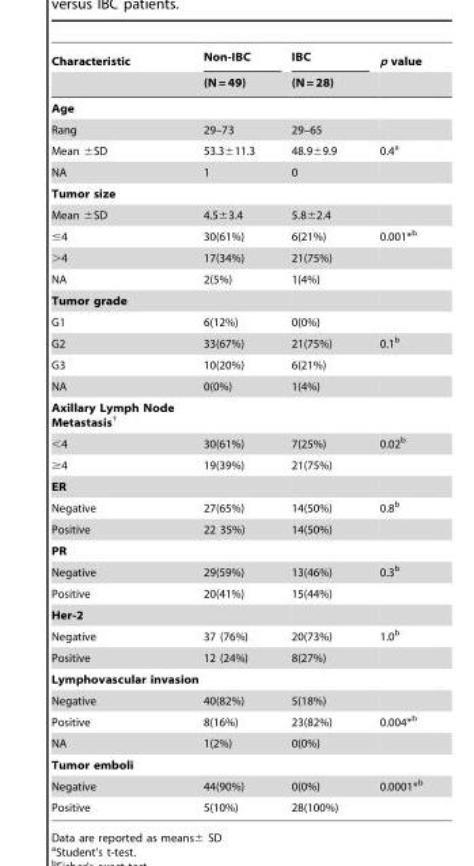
<table><thead><tr><td rowspan="2">Characteristic</td><td rowspan="2">Non-IBC (N = 49)</td><td rowspan="2">IBC (N = 28)</td><td rowspan="2">p value</td></tr><tr></tr></thead><tbody><tr><td colspan="4">Age</td></tr><tr><td>Rang</td><td>29–73</td><td>29–65</td><td></td></tr><tr><td>Mean ±SD</td><td>53.3±11.3</td><td>48.9±9.9</td><td>0.4<sup>a</sup></td></tr><tr><td>NA</td><td>1</td><td>0</td><td></td></tr><tr><td colspan="4">Tumor size</td></tr><tr><td>Mean ±SD</td><td>4.5±3.4</td><td>5.8±2.4</td><td></td></tr><tr><td>≤4</td><td>30(61%)</td><td>6(21%)</td><td>0.001*b</td></tr><tr><td>&gt;4</td><td>17(34%)</td><td>21(75%)</td><td></td></tr><tr><td>NA</td><td>2(5%)</td><td>1(4%)</td><td></td></tr><tr><td colspan="4">Tumor grade</td></tr><tr><td>G1</td><td>6(12%)</td><td>0(0%)</td><td></td></tr><tr><td>G2</td><td>33(67%)</td><td>21(75%)</td><td>0.1<sup>b</sup></td></tr><tr><td>G3</td><td>10(20%)</td><td>6(21%)</td><td></td></tr><tr><td>NA</td><td>0(0%)</td><td>1(4%)</td><td></td></tr><tr><td colspan="4">Axillary Lymph Node Metastasis†</td></tr><tr><td>&lt;4</td><td>30(61%)</td><td>7(25%)</td><td>0.02<sup>b</sup></td></tr><tr><td>≥4</td><td>19(39%)</td><td>21(75%)</td><td></td></tr><tr><td colspan="4">ER</td></tr><tr><td>Negative</td><td>27(65%)</td><td>14(50%)</td><td>0.8<sup>b</sup></td></tr><tr><td>Positive</td><td>22 35%)</td><td>14(50%)</td><td></td></tr><tr><td colspan="4">PR</td></tr><tr><td>Negative</td><td>29(59%)</td><td>13(46%)</td><td>0.3<sup>b</sup></td></tr><tr><td>Positive</td><td>20(41%)</td><td>15(44%)</td><td></td></tr><tr><td colspan="4">Her-2</td></tr><tr><td>Negative</td><td>37 (76%)</td><td>20(73%)</td><td>1.0<sup>b</sup></td></tr><tr><td>Positive</td><td>12 (24%)</td><td>8(27%)</td><td></td></tr><tr><td colspan="4">Lymphovascular invasion</td></tr><tr><td>Negative</td><td>40(82%)</td><td>5(18%)</td><td></td></tr><tr><td>Positive</td><td>8(16%)</td><td>23(82%)</td><td>0.004*b</td></tr><tr><td>NA</td><td>1(2%)</td><td>0(0%)</td><td></td></tr><tr><td colspan="4">Tumor emboli</td></tr><tr><td>Negative</td><td>44(90%)</td><td>0(0%)</td><td>0.0001*b</td></tr><tr><td>Positive</td><td>5(10%)</td><td>28(100%)</td><td></td></tr></tbody></table>